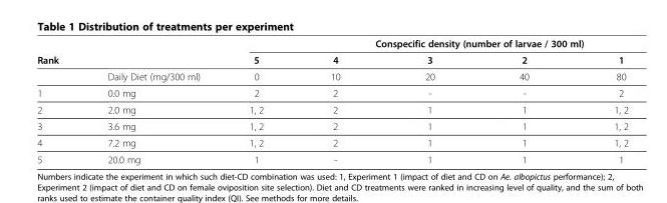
<table><thead><tr><td rowspan="2">Rank</td><td rowspan="2"></td><td rowspan="2">5</td><td colspan="4">Conspecific density (number of larvae / 300 ml)</td></tr><tr><td>4</td><td>3</td><td>2</td><td>1</td></tr></thead><tbody><tr><td></td><td>Daily Diet (mg/300 ml)</td><td>0</td><td>10</td><td>20</td><td>40</td><td>80</td></tr><tr><td>1</td><td>0.0 mg</td><td>2</td><td>2</td><td>-</td><td>-</td><td>2</td></tr><tr><td>2</td><td>2.0 mg</td><td>1, 2</td><td>2</td><td>1</td><td>1</td><td>1, 2</td></tr><tr><td>3</td><td>3.6 mg</td><td>1, 2</td><td>2</td><td>1</td><td>1</td><td>1, 2</td></tr><tr><td>4</td><td>7.2 mg</td><td>1, 2</td><td>2</td><td>1</td><td>1</td><td>1, 2</td></tr><tr><td>5</td><td>20.0 mg</td><td>1</td><td>-</td><td>1</td><td>1</td><td>1</td></tr></tbody></table>